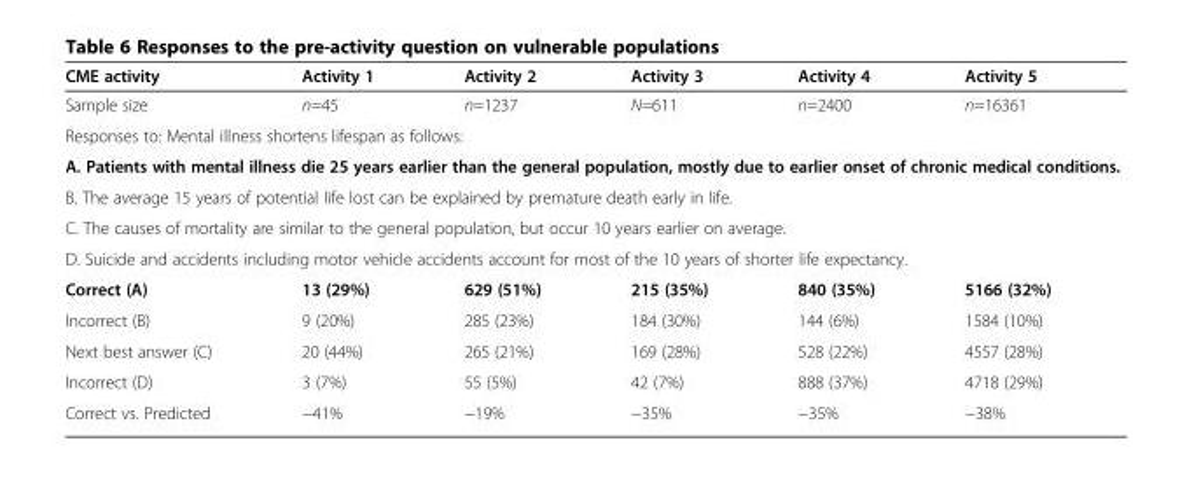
<table><thead><tr><td>CME activity</td><td>Activity 1</td><td>Activity 2</td><td>Activity 3</td><td>Activity 4</td><td>Activity 5</td></tr></thead><tbody><tr><td>Sample size</td><td>n=45</td><td>n=1237</td><td>N=611</td><td>n=2400</td><td>n=16361</td></tr><tr><td colspan="6">Responses to: Mental illness shortens lifespan as follows:</td></tr><tr><td colspan="6">A. Patients with mental illness die 25 years earlier than the general population, mostly due to earlier onset of chronic medical conditions.</td></tr><tr><td colspan="6">B. The average 15 years of potential life lost can be explained by premature death early in life.</td></tr><tr><td colspan="6">C. The causes of mortality are similar to the general population, but occur 10 years earlier on average.</td></tr><tr><td colspan="6">D. Suicide and accidents including motor vehicle accidents account for most of the 10 years of shorter life expectancy.</td></tr><tr><td>Correct (A)</td><td>13 (29%)</td><td>629 (51%)</td><td>215 (35%)</td><td>840 (35%)</td><td>5166 (32%)</td></tr><tr><td>Incorrect (B)</td><td>9 (20%)</td><td>285 (23%)</td><td>184 (30%)</td><td>144 (6%)</td><td>1584 (10%)</td></tr><tr><td>Next best answer (C)</td><td>20 (44%)</td><td>265 (21%)</td><td>169 (28%)</td><td>528 (22%)</td><td>4557 (28%)</td></tr><tr><td>Incorrect (D)</td><td>3 (7%)</td><td>55 (5%)</td><td>42 (7%)</td><td>888 (37%)</td><td>4718 (29%)</td></tr><tr><td>Correct vs. Predicted</td><td>−41%</td><td>−19%</td><td>−35%</td><td>−35%</td><td>−38%</td></tr></tbody></table>